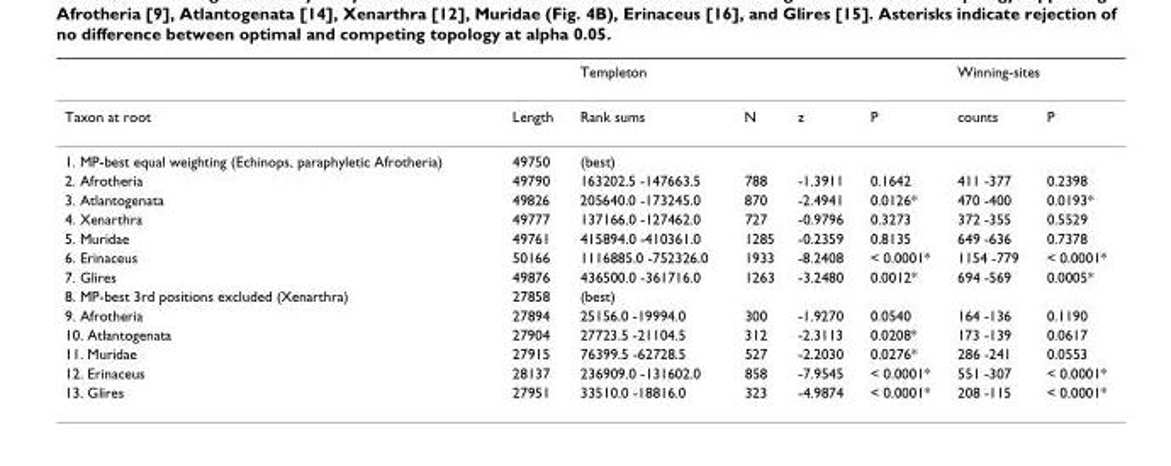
<table><thead><tr><td rowspan="2">Taxon at root</td><td rowspan="2">Length</td><td colspan="4">Templeton</td><td colspan="2">Winning-sites</td></tr><tr><td>Rank sums</td><td>N</td><td>z</td><td>P</td><td>counts</td><td>P</td></tr></thead><tbody><tr><td>1. MP-best equal weighting (Echinops, paraphyletic Afrotheria)</td><td>49750</td><td>(best)</td><td></td><td></td><td></td><td></td><td></td></tr><tr><td>2. Afrotheria</td><td>49790</td><td>163202.5 -147663.5</td><td>788</td><td>-1.3911</td><td>0.1642</td><td>411 -377</td><td>0.2398</td></tr><tr><td>3. Atlantogenata</td><td>49826</td><td>205640.0 -173245.0</td><td>870</td><td>-2.4941</td><td>0.0126*</td><td>470 -400</td><td>0.0193*</td></tr><tr><td>4. Xenarthra</td><td>49777</td><td>137166.0 -127462.0</td><td>727</td><td>-0.9796</td><td>0.3273</td><td>372 -355</td><td>0.5529</td></tr><tr><td>5. Muridae</td><td>49761</td><td>415894.0 -410361.0</td><td>1285</td><td>-0.2359</td><td>0.8135</td><td>649 -636</td><td>0.7378</td></tr><tr><td>6. Erinaceus</td><td>50166</td><td>1116885.0 -752326.0</td><td>1933</td><td>-8.2408</td><td>&lt; 0.0001*</td><td>1154 -779</td><td>&lt; 0.0001*</td></tr><tr><td>7. Glires</td><td>49876</td><td>436500.0 -361716.0</td><td>1263</td><td>-3.2480</td><td>0.0012*</td><td>694 -569</td><td>0.0005*</td></tr><tr><td>8. MP-best 3rd positions excluded (Xenarthra)</td><td>27858</td><td>(best)</td><td></td><td></td><td></td><td></td><td></td></tr><tr><td>9. Afrotheria</td><td>27894</td><td>25156.0 -19994.0</td><td>300</td><td>-1.9270</td><td>0.0540</td><td>164 -136</td><td>0.1190</td></tr><tr><td>10. Atlantogenata</td><td>27904</td><td>27723.5 -21104.5</td><td>312</td><td>-2.3113</td><td>0.0208*</td><td>173 -139</td><td>0.0617</td></tr><tr><td>11. Muridae</td><td>27915</td><td>76399.5 -62728.5</td><td>527</td><td>-2.2030</td><td>0.0276*</td><td>286 -241</td><td>0.0553</td></tr><tr><td>12. Erinaceus</td><td>28137</td><td>236909.0 -131602.0</td><td>858</td><td>-7.9545</td><td>&lt; 0.0001*</td><td>551 -307</td><td>&lt; 0.0001*</td></tr><tr><td>13. Glires</td><td>27951</td><td>33510.0 -18816.0</td><td>323</td><td>-4.9874</td><td>&lt; 0.0001*</td><td>208 -115</td><td>&lt; 0.0001*</td></tr></tbody></table>